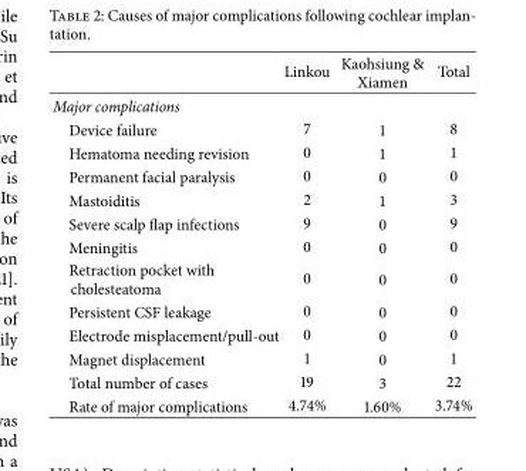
<table><thead><tr><td></td><td>Linkou</td><td>Kaohsiung &amp; Xiamen</td><td>Total</td></tr></thead><tbody><tr><td colspan="4">Major complications</td></tr><tr><td>Device failure</td><td>7</td><td>1</td><td>8</td></tr><tr><td>Hematoma needing revision</td><td>0</td><td>1</td><td>1</td></tr><tr><td>Permanent facial paralysis</td><td>0</td><td>0</td><td>0</td></tr><tr><td>Mastoiditis</td><td>2</td><td>1</td><td>3</td></tr><tr><td>Severe scalp flap infections</td><td>9</td><td>0</td><td>9</td></tr><tr><td>Meningitis</td><td>0</td><td>0</td><td>0</td></tr><tr><td>Retraction pocket with cholesteatoma</td><td>0</td><td>0</td><td>0</td></tr><tr><td>Persistent CSF leakage</td><td>0</td><td>0</td><td>0</td></tr><tr><td>Electrode misplacement/pull-out</td><td>0</td><td>0</td><td>0</td></tr><tr><td>Magnet displacement</td><td>1</td><td>0</td><td>1</td></tr><tr><td>Total number of cases</td><td>19</td><td>3</td><td>22</td></tr><tr><td>Rate of major complications</td><td>4.74%</td><td>1.60%</td><td>3.74%</td></tr></tbody></table>